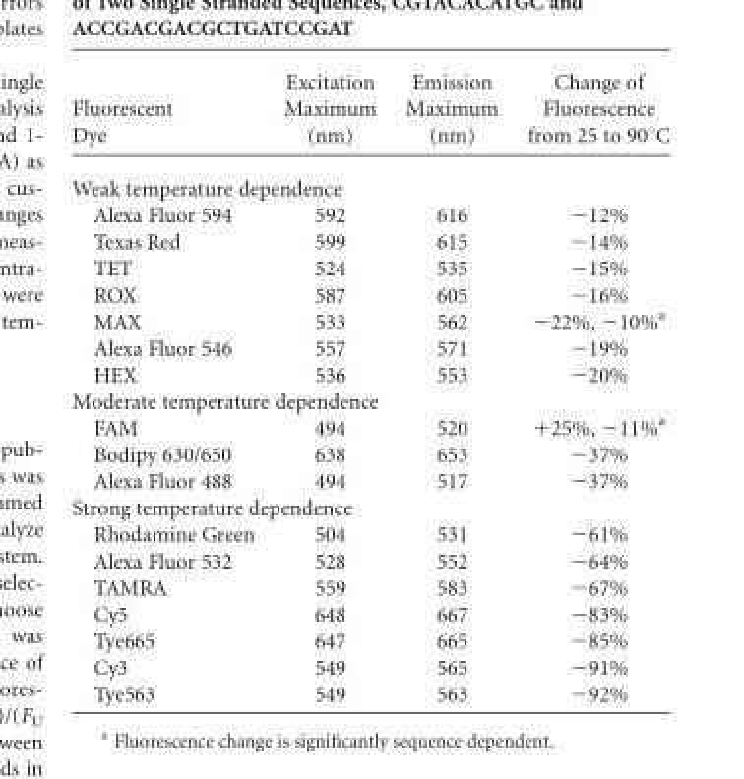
<table><thead><tr><td>Fluorescent Dye</td><td>Excitation Maximum (nm)</td><td>Emission Maximum (nm)</td><td>Change of Fluorescence from 25 to 90°C</td></tr></thead><tbody><tr><td colspan="4">Weak temperature dependence</td></tr><tr><td>Alexa Fluor 594</td><td>592</td><td>616</td><td>−12%</td></tr><tr><td>Texas Red</td><td>599</td><td>615</td><td>−14%</td></tr><tr><td>TET</td><td>524</td><td>535</td><td>−15%</td></tr><tr><td>ROX</td><td>587</td><td>605</td><td>−16%</td></tr><tr><td>MAX</td><td>533</td><td>562</td><td>−22%, −10%<sup>a</sup></td></tr><tr><td>Alexa Fluor 546</td><td>557</td><td>571</td><td>−19%</td></tr><tr><td>HEX</td><td>536</td><td>553</td><td>−20%</td></tr><tr><td colspan="4">Moderate temperature dependence</td></tr><tr><td>FAM</td><td>494</td><td>520</td><td>+25%, −11%<sup>a</sup></td></tr><tr><td>Bodipy 630/650</td><td>638</td><td>653</td><td>−37%</td></tr><tr><td>Alexa Fluor 488</td><td>494</td><td>517</td><td>−37%</td></tr><tr><td colspan="4">Strong temperature dependence</td></tr><tr><td>Rhodamine Green</td><td>504</td><td>531</td><td>−61%</td></tr><tr><td>Alexa Fluor 532</td><td>528</td><td>552</td><td>−64%</td></tr><tr><td>TAMRA</td><td>559</td><td>583</td><td>−67%</td></tr><tr><td>Cy5</td><td>648</td><td>667</td><td>−83%</td></tr><tr><td>Tye665</td><td>647</td><td>665</td><td>−85%</td></tr><tr><td>Cy3</td><td>549</td><td>565</td><td>−91%</td></tr><tr><td>Tye563</td><td>549</td><td>563</td><td>−92%</td></tr></tbody></table>